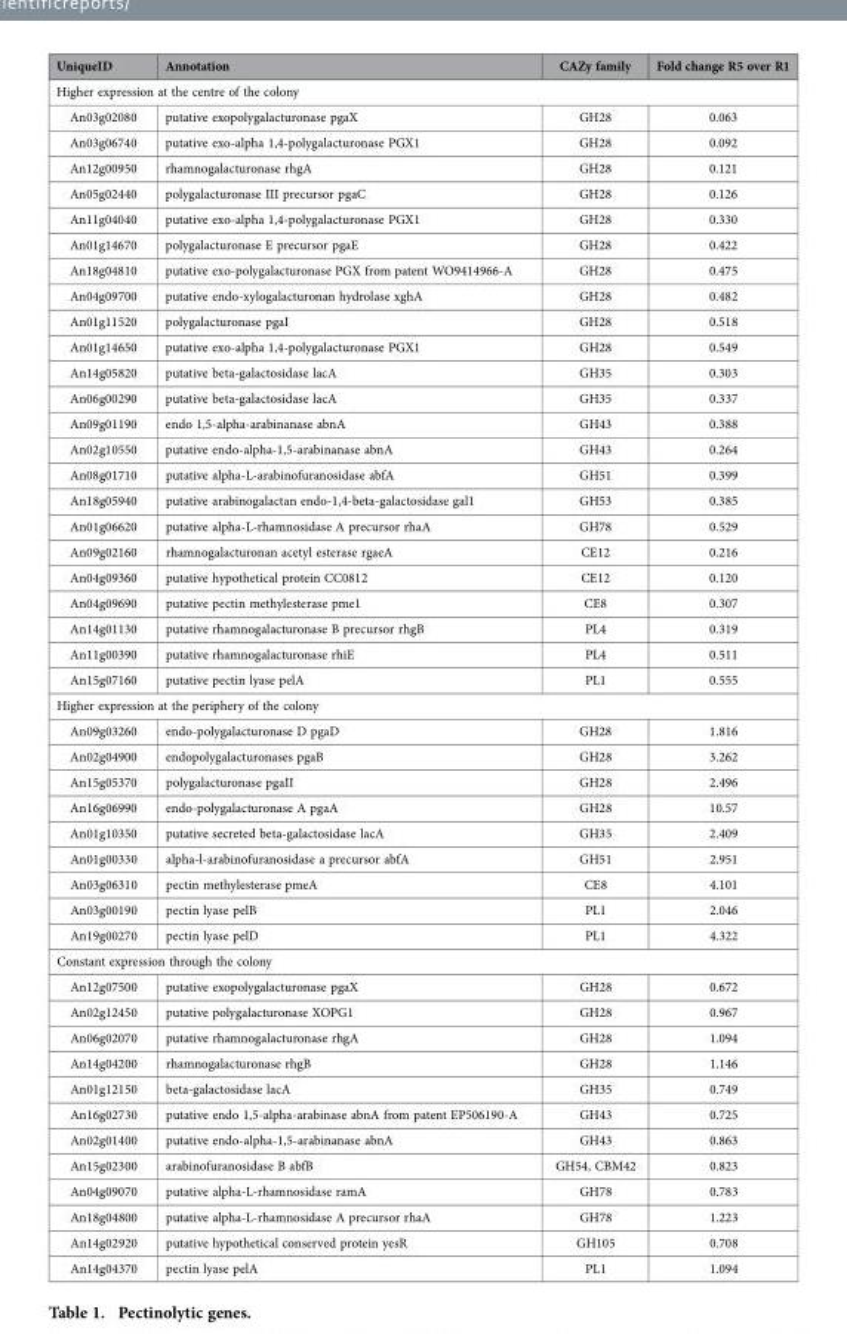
<table><thead><tr><td>UniqueID</td><td>Annotation</td><td>CAZy family</td><td>Fold change R5 over R1</td></tr></thead><tbody><tr><td colspan="4">Higher expression at the centre of the colony</td></tr><tr><td>An03g02080</td><td>putative exopolygalacturonase pgaX</td><td>GH28</td><td>0.063</td></tr><tr><td>An03g06740</td><td>putative exo-alpha 1,4-polygalacturonase PGX1</td><td>GH28</td><td>0.092</td></tr><tr><td>An12g00950</td><td>rhamnogalacturonase rhgA</td><td>GH28</td><td>0.121</td></tr><tr><td>An05g02440</td><td>polygalacturonase III precursor pgaC</td><td>GH28</td><td>0.126</td></tr><tr><td>An11g04040</td><td>putative exo-alpha 1,4-polygalacturonase PGX1</td><td>GH28</td><td>0.330</td></tr><tr><td>An01g14670</td><td>polygalacturonase E precursor pgaE</td><td>GH28</td><td>0.422</td></tr><tr><td>An18g04810</td><td>putative exo-polygalacturonase PGX from patent WO9414966-A</td><td>GH28</td><td>0.475</td></tr><tr><td>An04g09700</td><td>putative endo-xylogalacturonan hydrolase xghA</td><td>GH28</td><td>0.482</td></tr><tr><td>An01g11520</td><td>polygalacturonase pgaI</td><td>GH28</td><td>0.518</td></tr><tr><td>An01g14650</td><td>putative exo-alpha 1,4-polygalacturonase PGX1</td><td>GH28</td><td>0.549</td></tr><tr><td>An14g05820</td><td>putative beta-galactosidase lacA</td><td>GH35</td><td>0.303</td></tr><tr><td>An06g00290</td><td>putative beta-galactosidase lacA</td><td>GH35</td><td>0.337</td></tr><tr><td>An09g01190</td><td>endo 1,5-alpha-arabinanase abnA</td><td>GH43</td><td>0.388</td></tr><tr><td>An02g10550</td><td>putative endo-alpha-1,5-arabinanase abnA</td><td>GH43</td><td>0.264</td></tr><tr><td>An08g01710</td><td>putative alpha-L-arabinofuranosidase abfA</td><td>GH51</td><td>0.399</td></tr><tr><td>An18g05940</td><td>putative arabinogalactan endo-1,4-beta-galactosidase gal1</td><td>GH53</td><td>0.385</td></tr><tr><td>An01g06620</td><td>putative alpha-L-rhamnosidase A precursor rhaA</td><td>GH78</td><td>0.529</td></tr><tr><td>An09g02160</td><td>rhamnogalacturonan acetyl esterase rgaeA</td><td>CE12</td><td>0.216</td></tr><tr><td>An04g09360</td><td>putative hypothetical protein CC0812</td><td>CE12</td><td>0.120</td></tr><tr><td>An04g09690</td><td>putative pectin methylesterase pme1</td><td>CE8</td><td>0.307</td></tr><tr><td>An14g01130</td><td>putative rhamnogalacturonase B precursor rhgB</td><td>PL4</td><td>0.319</td></tr><tr><td>An11g00390</td><td>putative rhamnogalacturonase rhiE</td><td>PL4</td><td>0.511</td></tr><tr><td>An15g07160</td><td>putative pectin lyase pelA</td><td>PL1</td><td>0.555</td></tr><tr><td colspan="4">Higher expression at the periphery of the colony</td></tr><tr><td>An09g03260</td><td>endo-polygalacturonase D pgaD</td><td>GH28</td><td>1.816</td></tr><tr><td>An02g04900</td><td>endopolygalacturonases pgaB</td><td>GH28</td><td>3.262</td></tr><tr><td>An15g05370</td><td>polygalacturonase pgaII</td><td>GH28</td><td>2.496</td></tr><tr><td>An16g06990</td><td>endo-polygalacturonase A pgaA</td><td>GH28</td><td>10.57</td></tr><tr><td>An01g10350</td><td>putative secreted beta-galactosidase lacA</td><td>GH35</td><td>2.409</td></tr><tr><td>An01g00330</td><td>alpha-l-arabinofuranosidase a precursor abfA</td><td>GH51</td><td>2.951</td></tr><tr><td>An03g06310</td><td>pectin methylesterase pmeA</td><td>CE8</td><td>4.101</td></tr><tr><td>An03g00190</td><td>pectin lyase pelB</td><td>PL1</td><td>2.046</td></tr><tr><td>An19g00270</td><td>pectin lyase pelD</td><td>PL1</td><td>4.322</td></tr><tr><td colspan="4">Constant expression through the colony</td></tr><tr><td>An12g07500</td><td>putative exopolygalacturonase pgaX</td><td>GH28</td><td>0.672</td></tr><tr><td>An02g12450</td><td>putative polygalacturonase XOPG1</td><td>GH28</td><td>0.967</td></tr><tr><td>An06g02070</td><td>putative rhamnogalacturonase rhgA</td><td>GH28</td><td>1.094</td></tr><tr><td>An14g04200</td><td>rhamnogalacturonase rhgB</td><td>GH28</td><td>1.146</td></tr><tr><td>An01g12150</td><td>beta-galactosidase lacA</td><td>GH35</td><td>0.749</td></tr><tr><td>An16g02730</td><td>putative endo 1,5-alpha-arabinase abnA from patent EP506190-A</td><td>GH43</td><td>0.725</td></tr><tr><td>An02g01400</td><td>putative endo-alpha-1,5-arabinanase abnA</td><td>GH43</td><td>0.863</td></tr><tr><td>An15g02300</td><td>arabinofuranosidase B abfB</td><td>GH54, CBM42</td><td>0.823</td></tr><tr><td>An04g09070</td><td>putative alpha-L-rhamnosidase ramA</td><td>GH78</td><td>0.783</td></tr><tr><td>An18g04800</td><td>putative alpha-L-rhamnosidase A precursor rhaA</td><td>GH78</td><td>1.223</td></tr><tr><td>An14g02920</td><td>putative hypothetical conserved protein yesR</td><td>GH105</td><td>0.708</td></tr><tr><td>An14g04370</td><td>pectin lyase pelA</td><td>PL1</td><td>1.094</td></tr></tbody></table>